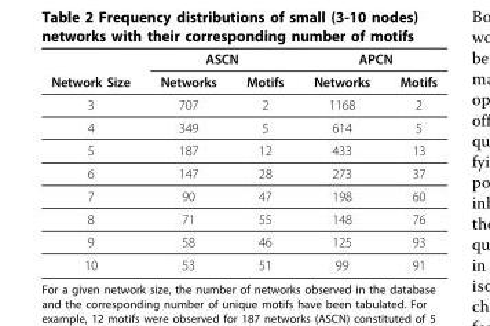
<table><thead><tr><td rowspan="2">Network Size</td><td colspan="2">ASCN</td><td colspan="2">APCN</td></tr><tr><td>Networks</td><td>Motifs</td><td>Networks</td><td>Motifs</td></tr></thead><tbody><tr><td>3</td><td>707</td><td>2</td><td>1168</td><td>2</td></tr><tr><td>4</td><td>349</td><td>5</td><td>614</td><td>5</td></tr><tr><td>5</td><td>187</td><td>12</td><td>433</td><td>13</td></tr><tr><td>6</td><td>147</td><td>28</td><td>273</td><td>37</td></tr><tr><td>7</td><td>90</td><td>47</td><td>198</td><td>60</td></tr><tr><td>8</td><td>71</td><td>55</td><td>148</td><td>76</td></tr><tr><td>9</td><td>58</td><td>46</td><td>125</td><td>93</td></tr><tr><td>10</td><td>53</td><td>51</td><td>99</td><td>91</td></tr></tbody></table>